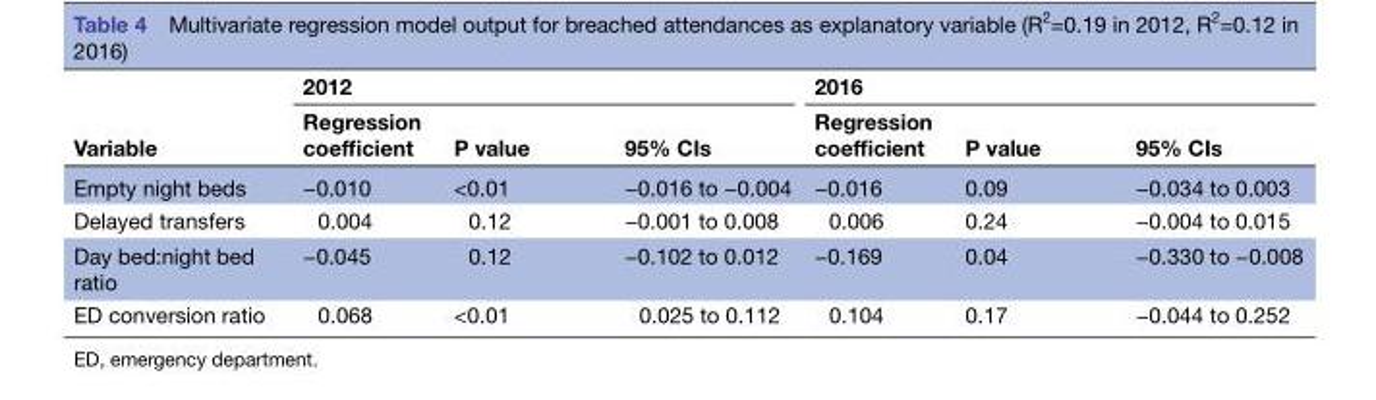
<table><thead><tr><td rowspan="2">Variable</td><td colspan="3">2012</td><td colspan="3">2016</td></tr><tr><td>Regression coefficient</td><td>P value</td><td>95% CIs</td><td>Regression coefficient</td><td>P value</td><td>95% CIs</td></tr></thead><tbody><tr><td>Empty night beds</td><td>−0.010</td><td>&lt;0.01</td><td>−0.016 to −0.004</td><td>−0.016</td><td>0.09</td><td>−0.034 to 0.003</td></tr><tr><td>Delayed transfers</td><td>0.004</td><td>0.12</td><td>−0.001 to 0.008</td><td>0.006</td><td>0.24</td><td>−0.004 to 0.015</td></tr><tr><td>Day bed:night bed ratio</td><td>−0.045</td><td>0.12</td><td>−0.102 to 0.012</td><td>−0.169</td><td>0.04</td><td>−0.330 to −0.008</td></tr><tr><td>ED conversion ratio</td><td>0.068</td><td>&lt;0.01</td><td>0.025 to 0.112</td><td>0.104</td><td>0.17</td><td>−0.044 to 0.252</td></tr></tbody></table>